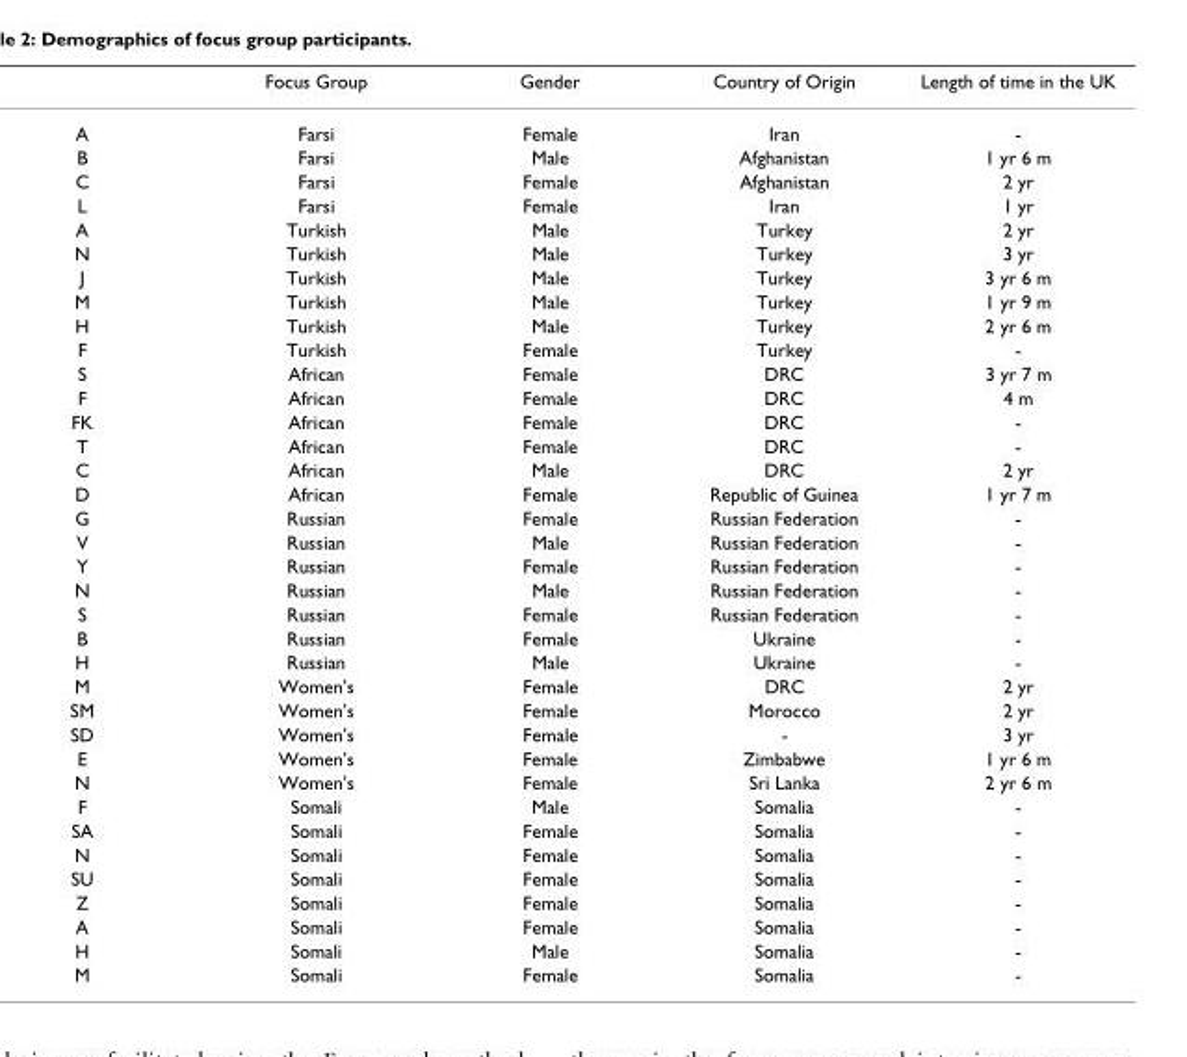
<table><thead><tr><td></td><td>Focus Group</td><td>Gender</td><td>Country of Origin</td><td>Length of time in the UK</td></tr></thead><tbody><tr><td>A</td><td>Farsi</td><td>Female</td><td>Iran</td><td>-</td></tr><tr><td>B</td><td>Farsi</td><td>Male</td><td>Afghanistan</td><td>1 yr 6 m</td></tr><tr><td>C</td><td>Farsi</td><td>Female</td><td>Afghanistan</td><td>2 yr</td></tr><tr><td>L</td><td>Farsi</td><td>Female</td><td>Iran</td><td>1 yr</td></tr><tr><td>A</td><td>Turkish</td><td>Male</td><td>Turkey</td><td>2 yr</td></tr><tr><td>N</td><td>Turkish</td><td>Male</td><td>Turkey</td><td>3 yr</td></tr><tr><td>J</td><td>Turkish</td><td>Male</td><td>Turkey</td><td>3 yr 6 m</td></tr><tr><td>M</td><td>Turkish</td><td>Male</td><td>Turkey</td><td>1 yr 9 m</td></tr><tr><td>H</td><td>Turkish</td><td>Male</td><td>Turkey</td><td>2 yr 6 m</td></tr><tr><td>F</td><td>Turkish</td><td>Female</td><td>Turkey</td><td>-</td></tr><tr><td>S</td><td>African</td><td>Female</td><td>DRC</td><td>3 yr 7 m</td></tr><tr><td>F</td><td>African</td><td>Female</td><td>DRC</td><td>4 m</td></tr><tr><td>FK</td><td>African</td><td>Female</td><td>DRC</td><td>-</td></tr><tr><td>T</td><td>African</td><td>Female</td><td>DRC</td><td>-</td></tr><tr><td>C</td><td>African</td><td>Male</td><td>DRC</td><td>2 yr</td></tr><tr><td>D</td><td>African</td><td>Female</td><td>Republic of Guinea</td><td>1 yr 7 m</td></tr><tr><td>G</td><td>Russian</td><td>Female</td><td>Russian Federation</td><td>-</td></tr><tr><td>V</td><td>Russian</td><td>Male</td><td>Russian Federation</td><td>-</td></tr><tr><td>Y</td><td>Russian</td><td>Female</td><td>Russian Federation</td><td>-</td></tr><tr><td>N</td><td>Russian</td><td>Male</td><td>Russian Federation</td><td>-</td></tr><tr><td>S</td><td>Russian</td><td>Female</td><td>Russian Federation</td><td>-</td></tr><tr><td>B</td><td>Russian</td><td>Female</td><td>Ukraine</td><td>-</td></tr><tr><td>H</td><td>Russian</td><td>Male</td><td>Ukraine</td><td>-</td></tr><tr><td>M</td><td>Women&#x27;s</td><td>Female</td><td>DRC</td><td>2 yr</td></tr><tr><td>SM</td><td>Women&#x27;s</td><td>Female</td><td>Morocco</td><td>2 yr</td></tr><tr><td>SD</td><td>Women&#x27;s</td><td>Female</td><td>-</td><td>3 yr</td></tr><tr><td>E</td><td>Women&#x27;s</td><td>Female</td><td>Zimbabwe</td><td>1 yr 6 m</td></tr><tr><td>N</td><td>Women&#x27;s</td><td>Female</td><td>Sri Lanka</td><td>2 yr 6 m</td></tr><tr><td>F</td><td>Somali</td><td>Male</td><td>Somalia</td><td>-</td></tr><tr><td>SA</td><td>Somali</td><td>Female</td><td>Somalia</td><td>-</td></tr><tr><td>N</td><td>Somali</td><td>Female</td><td>Somalia</td><td>-</td></tr><tr><td>SU</td><td>Somali</td><td>Female</td><td>Somalia</td><td>-</td></tr><tr><td>Z</td><td>Somali</td><td>Female</td><td>Somalia</td><td>-</td></tr><tr><td>A</td><td>Somali</td><td>Female</td><td>Somalia</td><td>-</td></tr><tr><td>H</td><td>Somali</td><td>Male</td><td>Somalia</td><td>-</td></tr><tr><td>M</td><td>Somali</td><td>Female</td><td>Somalia</td><td>-</td></tr></tbody></table>